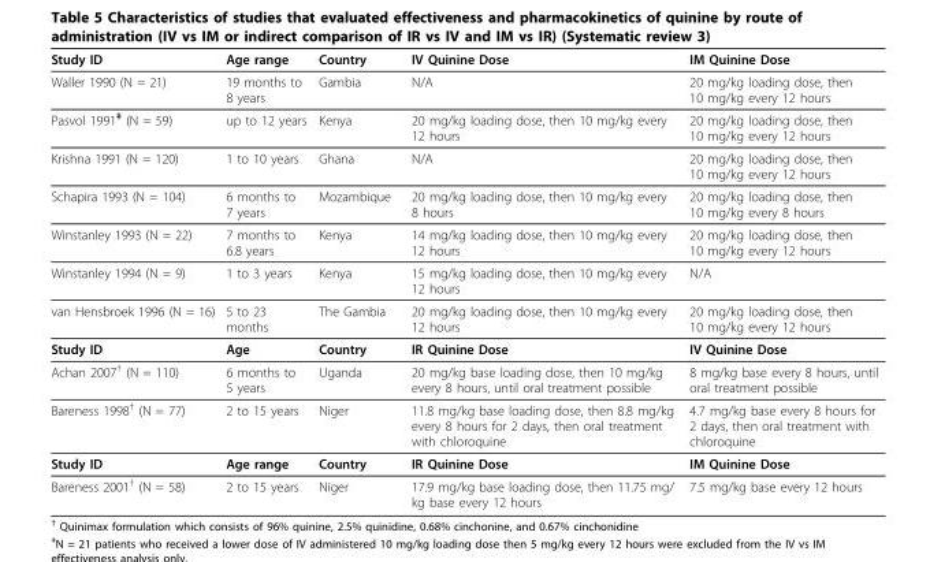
<table><thead><tr><td>Study ID</td><td>Age range</td><td>Country</td><td>IV Quinine Dose</td><td>IM Quinine Dose</td></tr></thead><tbody><tr><td>Waller 1990 (N = 21)</td><td>19 months to 8 years</td><td>Gambia</td><td>N/A</td><td>20 mg/kg loading dose, then 10 mg/kg every 12 hours</td></tr><tr><td>Pasvol 1991<sup>‡</sup> (N = 59)</td><td>up to 12 years</td><td>Kenya</td><td>20 mg/kg loading dose, then 10 mg/kg every 12 hours</td><td>20 mg/kg loading dose, then 10 mg/kg every 12 hours</td></tr><tr><td>Krishna 1991 (N = 120)</td><td>1 to 10 years</td><td>Ghana</td><td>N/A</td><td>20 mg/kg loading dose, then 10 mg/kg every 12 hours</td></tr><tr><td>Schapira 1993 (N = 104)</td><td>6 months to 7 years</td><td>Mozambique</td><td>20 mg/kg loading dose, then 10 mg/kg every 8 hours</td><td>20 mg/kg loading dose, then 10 mg/kg every 8 hours</td></tr><tr><td>Winstanley 1993 (N = 22)</td><td>7 months to 6.8 years</td><td>Kenya</td><td>14 mg/kg loading dose, then 10 mg/kg every 12 hours</td><td>20 mg/kg loading dose, then 10 mg/kg every 12 hours</td></tr><tr><td>Winstanley 1994 (N = 9)</td><td>1 to 3 years</td><td>Kenya</td><td>15 mg/kg loading dose, then 10 mg/kg every 12 hours</td><td>N/A</td></tr><tr><td>van Hensbroek 1996 (N = 16)</td><td>5 to 23 months</td><td>The Gambia</td><td>20 mg/kg loading dose, then 10 mg/kg every 12 hours</td><td>20 mg/kg loading dose, then 10 mg/kg every 12 hours</td></tr><tr><td>Study ID</td><td>Age</td><td>Country</td><td>IR Quinine Dose</td><td>IV Quinine Dose</td></tr><tr><td>Achan 2007<sup>†</sup> (N = 110)</td><td>6 months to 5 years</td><td>Uganda</td><td>20 mg/kg base loading dose, then 10 mg/kg every 8 hours, until oral treatment possible</td><td>8 mg/kg base every 8 hours, until oral treatment possible</td></tr><tr><td>Bareness 1998<sup>†</sup> (N = 77)</td><td>2 to 15 years</td><td>Niger</td><td>11.8 mg/kg base loading dose, then 8.8 mg/kg every 8 hours for 2 days, then oral treatment with chloroquine</td><td>4.7 mg/kg base every 8 hours for 2 days, then oral treatment with chloroquine</td></tr><tr><td>Study ID</td><td>Age range</td><td>Country</td><td>IR Quinine Dose</td><td>IM Quinine Dose</td></tr><tr><td>Bareness 2001<sup>†</sup> (N = 58)</td><td>2 to 15 years</td><td>Niger</td><td>17.9 mg/kg base loading dose, then 11.75 mg/ kg base every 12 hours</td><td>7.5 mg/kg base every 12 hours</td></tr></tbody></table>